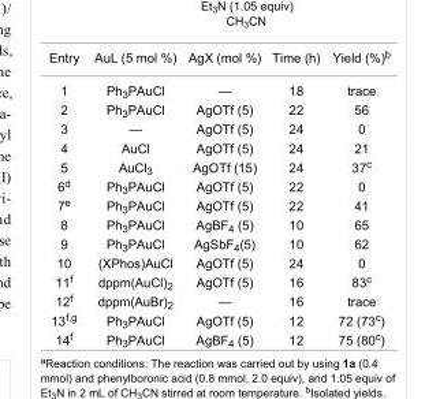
<table><tbody><tr><td>Entry</td><td>AuL (5 mol %)</td><td>AgX (mol %)</td><td>Time (h)</td><td>Yield (%)<sup>b</sup></td></tr><tr><td>1</td><td>Ph<sub>3</sub>PAuCl</td><td>—</td><td>18</td><td>trace</td></tr><tr><td>2</td><td>Ph<sub>3</sub>PAuCl</td><td>AgOTf (5)</td><td>22</td><td>56</td></tr><tr><td>3</td><td>—</td><td>AgOTf (5)</td><td>24</td><td>0</td></tr><tr><td>4</td><td>AuCl</td><td>AgOTf (5)</td><td>24</td><td>21</td></tr><tr><td>5</td><td>AuCl<sub>3</sub></td><td>AgOTf (15)</td><td>24</td><td>37<sup>c</sup></td></tr><tr><td>6<sup>d</sup></td><td>Ph<sub>3</sub>PAuCl</td><td>AgOTf (5)</td><td>22</td><td>0</td></tr><tr><td>7<sup>e</sup></td><td>Ph<sub>3</sub>PAuCl</td><td>AgOTf (5)</td><td>22</td><td>41</td></tr><tr><td>8</td><td>Ph<sub>3</sub>PAuCl</td><td>AgBF<sub>4</sub> (5)</td><td>10</td><td>65</td></tr><tr><td>9</td><td>Ph<sub>3</sub>PAuCl</td><td>AgSbF<sub>4</sub>(5)</td><td>10</td><td>62</td></tr><tr><td>10</td><td>(XPhos)AuCl</td><td>AgOTf (5)</td><td>24</td><td>0</td></tr><tr><td>11<sup>f</sup></td><td>dppm(AuCl)<sub>2</sub></td><td>AgOTf (5)</td><td>16</td><td>83<sup>c</sup></td></tr><tr><td>12<sup>f</sup></td><td>dppm(AuBr)<sub>2</sub></td><td>—</td><td>16</td><td>trace</td></tr><tr><td>13<sup>f,g</sup></td><td>Ph<sub>3</sub>PAuCl</td><td>AgOTf (5)</td><td>12</td><td>72 (73<sup>c</sup>)</td></tr><tr><td>14<sup>f</sup></td><td>Ph<sub>3</sub>PAuCl</td><td>AgBF<sub>4</sub> (5)</td><td>12</td><td>75 (80<sup>c</sup>)</td></tr></tbody></table>